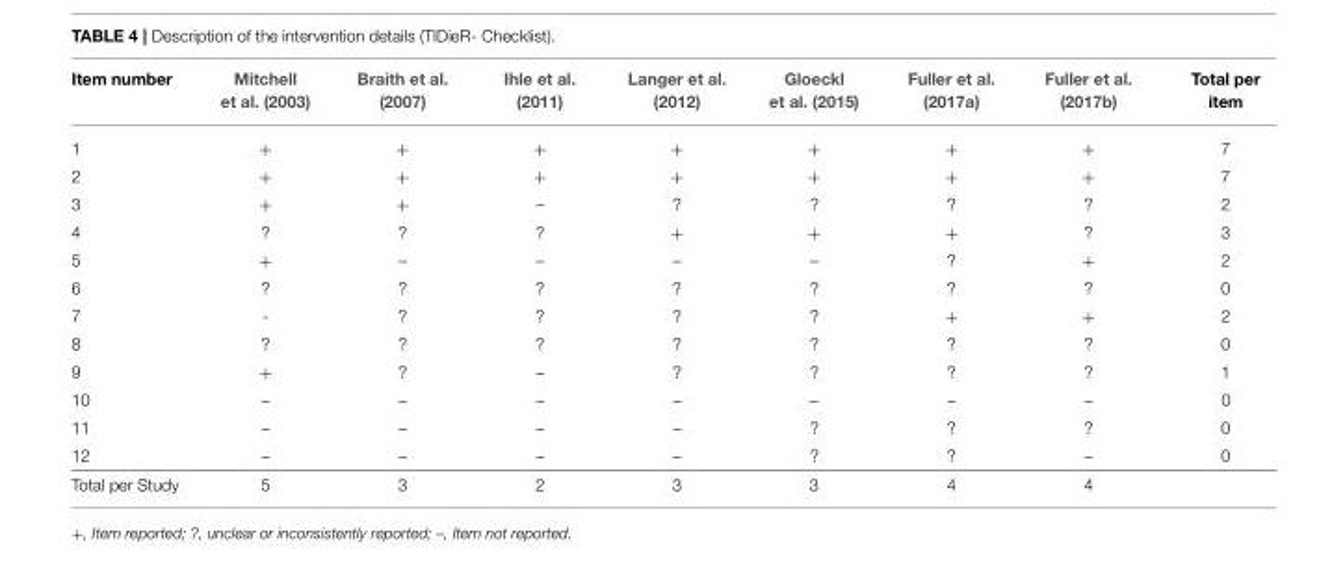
<table><thead><tr><td>Item number</td><td>Mitchell et al. (2003)</td><td>Braith et al. (2007)</td><td>Ihle et al. (2011)</td><td>Langer et al. (2012)</td><td>Gloeckl et al. (2015)</td><td>Fuller et al. (2017a)</td><td>Fuller et al. (2017b)</td><td>Total per item</td></tr></thead><tbody><tr><td>1</td><td>+</td><td>+</td><td>+</td><td>+</td><td>+</td><td>+</td><td>+</td><td>7</td></tr><tr><td>2</td><td>+</td><td>+</td><td>+</td><td>+</td><td>+</td><td>+</td><td>+</td><td>7</td></tr><tr><td>3</td><td>+</td><td>+</td><td>–</td><td>?</td><td>?</td><td>?</td><td>?</td><td>2</td></tr><tr><td>4</td><td>?</td><td>?</td><td>?</td><td>+</td><td>+</td><td>+</td><td>?</td><td>3</td></tr><tr><td>5</td><td>+</td><td>–</td><td>–</td><td>–</td><td>–</td><td>?</td><td>+</td><td>2</td></tr><tr><td>6</td><td>?</td><td>?</td><td>?</td><td>?</td><td>?</td><td>?</td><td>?</td><td>0</td></tr><tr><td>7</td><td>-</td><td>?</td><td>?</td><td>?</td><td>?</td><td>+</td><td>+</td><td>2</td></tr><tr><td>8</td><td>?</td><td>?</td><td>?</td><td>?</td><td>?</td><td>?</td><td>?</td><td>0</td></tr><tr><td>9</td><td>+</td><td>?</td><td>–</td><td>?</td><td>?</td><td>?</td><td>?</td><td>1</td></tr><tr><td>10</td><td>–</td><td>–</td><td>–</td><td>–</td><td>–</td><td>–</td><td>–</td><td>0</td></tr><tr><td>11</td><td>–</td><td>–</td><td>–</td><td>–</td><td>?</td><td>?</td><td>?</td><td>0</td></tr><tr><td>12</td><td>–</td><td>–</td><td>–</td><td>–</td><td>?</td><td>?</td><td>–</td><td>0</td></tr><tr><td>Total per Study</td><td>5</td><td>3</td><td>2</td><td>3</td><td>3</td><td>4</td><td>4</td><td></td></tr></tbody></table>